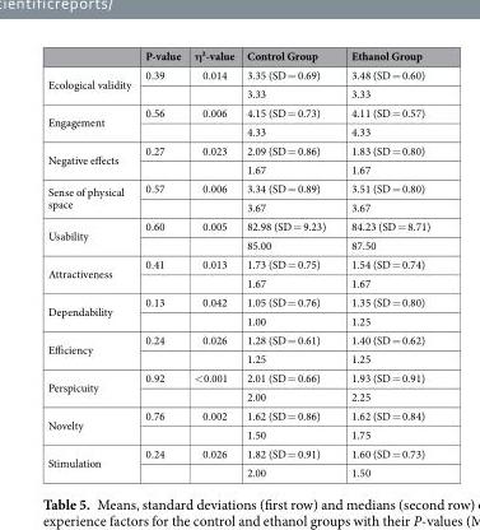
<table><thead><tr><td></td><td>P-value</td><td>η²-value</td><td>Control Group</td><td>Ethanol Group</td></tr></thead><tbody><tr><td rowspan="2">Ecological validity</td><td>0.39</td><td>0.014</td><td>3.35 (SD = 0.69)</td><td>3.48 (SD = 0.60)</td></tr><tr><td></td><td></td><td>3.33</td><td>3.33</td></tr><tr><td rowspan="2">Engagement</td><td>0.56</td><td>0.006</td><td>4.15 (SD = 0.73)</td><td>4.11 (SD = 0.57)</td></tr><tr><td></td><td></td><td>4.33</td><td>4.33</td></tr><tr><td rowspan="2">Negative effects</td><td>0.27</td><td>0.023</td><td>2.09 (SD = 0.86)</td><td>1.83 (SD = 0.80)</td></tr><tr><td></td><td></td><td>1.67</td><td>1.67</td></tr><tr><td rowspan="2">Sense of physical space</td><td>0.57</td><td>0.006</td><td>3.34 (SD = 0.89)</td><td>3.51 (SD = 0.80)</td></tr><tr><td></td><td></td><td>3.67</td><td>3.67</td></tr><tr><td rowspan="2">Usability</td><td>0.60</td><td>0.005</td><td>82.98 (SD = 9.23)</td><td>84.23 (SD = 8.71)</td></tr><tr><td></td><td></td><td>85.00</td><td>87.50</td></tr><tr><td rowspan="2">Attractiveness</td><td>0.41</td><td>0.013</td><td>1.73 (SD = 0.75)</td><td>1.54 (SD = 0.74)</td></tr><tr><td></td><td></td><td>1.67</td><td>1.67</td></tr><tr><td rowspan="2">Dependability</td><td>0.13</td><td>0.042</td><td>1.05 (SD = 0.76)</td><td>1.35 (SD = 0.80)</td></tr><tr><td></td><td></td><td>1.00</td><td>1.25</td></tr><tr><td rowspan="2">Efficiency</td><td>0.24</td><td>0.026</td><td>1.28 (SD = 0.61)</td><td>1.40 (SD = 0.62)</td></tr><tr><td></td><td></td><td>1.25</td><td>1.25</td></tr><tr><td rowspan="2">Perspicuity</td><td>0.92</td><td>&lt;0.001</td><td>2.01 (SD = 0.66)</td><td>1.93 (SD = 0.91)</td></tr><tr><td></td><td></td><td>2.00</td><td>2.25</td></tr><tr><td rowspan="2">Novelty</td><td>0.76</td><td>0.002</td><td>1.62 (SD = 0.86)</td><td>1.62 (SD = 0.84)</td></tr><tr><td></td><td></td><td>1.50</td><td>1.75</td></tr><tr><td rowspan="2">Stimulation</td><td>0.24</td><td>0.026</td><td>1.82 (SD = 0.91)</td><td>1.60 (SD = 0.73)</td></tr><tr><td></td><td></td><td>2.00</td><td>1.50</td></tr></tbody></table>